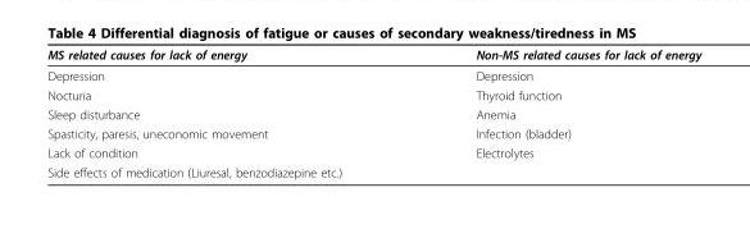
<table><thead><tr><td>MS related causes for lack of energy</td><td>Non-MS related causes for lack of energy</td></tr></thead><tbody><tr><td>Depression</td><td>Depression</td></tr><tr><td>Nocturia</td><td>Thyroid function</td></tr><tr><td>Sleep disturbance</td><td>Anemia</td></tr><tr><td>Spasticity, paresis, uneconomic movement</td><td>Infection (bladder)</td></tr><tr><td>Lack of condition</td><td>Electrolytes</td></tr><tr><td>Side effects of medication (Liuresal, benzodiazepine etc.)</td><td></td></tr></tbody></table>